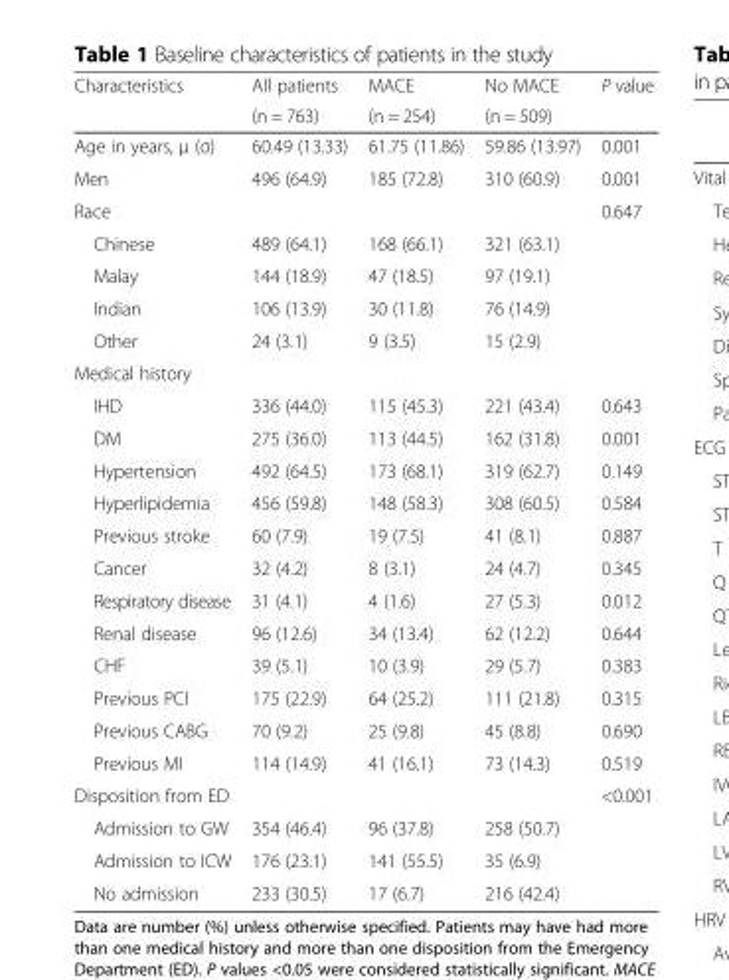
<table><thead><tr><td rowspan="2">Characteristics</td><td rowspan="2">All patients (n = 763)</td><td rowspan="2">MACE (n = 254)</td><td rowspan="2">No MACE (n = 509)</td><td rowspan="2">P value</td></tr><tr></tr></thead><tbody><tr><td>Age in years, μ (σ)</td><td>60.49 (13.33)</td><td>61.75 (11.86)</td><td>59.86 (13.97)</td><td>0.001</td></tr><tr><td>Men</td><td>496 (64.9)</td><td>185 (72.8)</td><td>310 (60.9)</td><td>0.001</td></tr><tr><td>Race</td><td></td><td></td><td></td><td>0.647</td></tr><tr><td>Chinese</td><td>489 (64.1)</td><td>168 (66.1)</td><td>321 (63.1)</td><td></td></tr><tr><td>Malay</td><td>144 (18.9)</td><td>47 (18.5)</td><td>97 (19.1)</td><td></td></tr><tr><td>Indian</td><td>106 (13.9)</td><td>30 (11.8)</td><td>76 (14.9)</td><td></td></tr><tr><td>Other</td><td>24 (3.1)</td><td>9 (3.5)</td><td>15 (2.9)</td><td></td></tr><tr><td colspan="5">Medical history</td></tr><tr><td>IHD</td><td>336 (44.0)</td><td>115 (45.3)</td><td>221 (43.4)</td><td>0.643</td></tr><tr><td>DM</td><td>275 (36.0)</td><td>113 (44.5)</td><td>162 (31.8)</td><td>0.001</td></tr><tr><td>Hypertension</td><td>492 (64.5)</td><td>173 (68.1)</td><td>319 (62.7)</td><td>0.149</td></tr><tr><td>Hyperlipidemia</td><td>456 (59.8)</td><td>148 (58.3)</td><td>308 (60.5)</td><td>0.584</td></tr><tr><td>Previous stroke</td><td>60 (7.9)</td><td>19 (7.5)</td><td>41 (8.1)</td><td>0.887</td></tr><tr><td>Cancer</td><td>32 (4.2)</td><td>8 (3.1)</td><td>24 (4.7)</td><td>0.345</td></tr><tr><td>Respiratory disease</td><td>31 (4.1)</td><td>4 (1.6)</td><td>27 (5.3)</td><td>0.012</td></tr><tr><td>Renal disease</td><td>96 (12.6)</td><td>34 (13.4)</td><td>62 (12.2)</td><td>0.644</td></tr><tr><td>CHF</td><td>39 (5.1)</td><td>10 (3.9)</td><td>29 (5.7)</td><td>0.383</td></tr><tr><td>Previous PCI</td><td>175 (22.9)</td><td>64 (25.2)</td><td>111 (21.8)</td><td>0.315</td></tr><tr><td>Previous CABG</td><td>70 (9.2)</td><td>25 (9.8)</td><td>45 (8.8)</td><td>0.690</td></tr><tr><td>Previous MI</td><td>114 (14.9)</td><td>41 (16.1)</td><td>73 (14.3)</td><td>0.519</td></tr><tr><td>Disposition from ED</td><td></td><td></td><td></td><td>&lt;0.001</td></tr><tr><td>Admission to GW</td><td>354 (46.4)</td><td>96 (37.8)</td><td>258 (50.7)</td><td></td></tr><tr><td>Admission to ICW</td><td>176 (23.1)</td><td>141 (55.5)</td><td>35 (6.9)</td><td></td></tr><tr><td>No admission</td><td>233 (30.5)</td><td>17 (6.7)</td><td>216 (42.4)</td><td></td></tr></tbody></table>